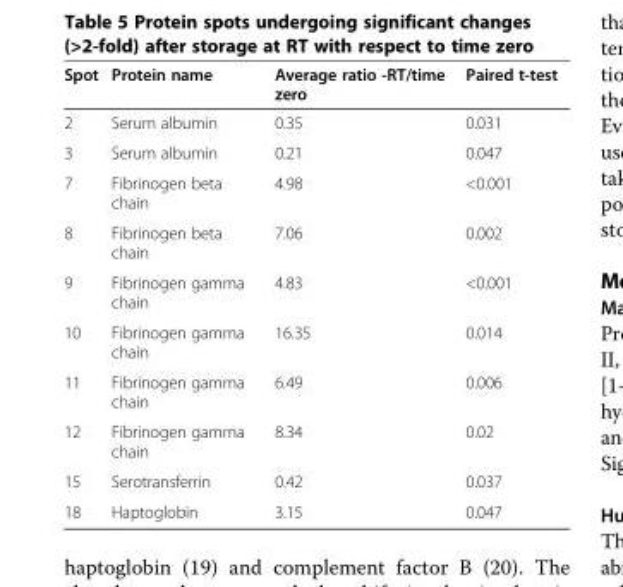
<table><thead><tr><td>Spot</td><td>Protein name</td><td>Average ratio -RT/time zero</td><td>Paired t-test</td></tr></thead><tbody><tr><td>2</td><td>Serum albumin</td><td>0.35</td><td>0.031</td></tr><tr><td>3</td><td>Serum albumin</td><td>0.21</td><td>0.047</td></tr><tr><td>7</td><td>Fibrinogen beta chain</td><td>4.98</td><td>&lt;0.001</td></tr><tr><td>8</td><td>Fibrinogen beta chain</td><td>7.06</td><td>0.002</td></tr><tr><td>9</td><td>Fibrinogen gamma chain</td><td>4.83</td><td>&lt;0.001</td></tr><tr><td>10</td><td>Fibrinogen gamma chain</td><td>16.35</td><td>0.014</td></tr><tr><td>11</td><td>Fibrinogen gamma chain</td><td>6.49</td><td>0.006</td></tr><tr><td>12</td><td>Fibrinogen gamma chain</td><td>8.34</td><td>0.02</td></tr><tr><td>15</td><td>Serotransferrin</td><td>0.42</td><td>0.037</td></tr><tr><td>18</td><td>Haptoglobin</td><td>3.15</td><td>0.047</td></tr></tbody></table>